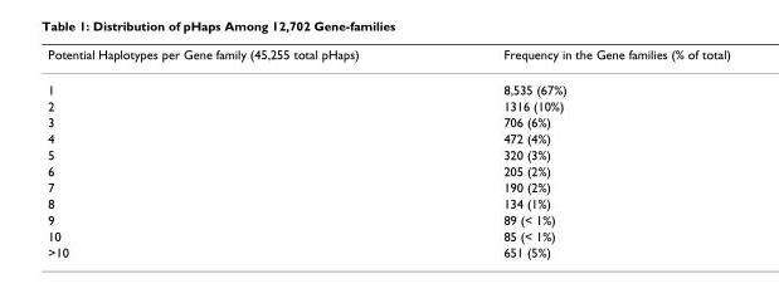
<table><thead><tr><td>Potential Haplotypes per Gene family (45,255 total pHaps)</td><td>Frequency in the Gene families (% of total)</td></tr></thead><tbody><tr><td>1</td><td>8,535 (67%)</td></tr><tr><td>2</td><td>1316 (10%)</td></tr><tr><td>3</td><td>706 (6%)</td></tr><tr><td>4</td><td>472 (4%)</td></tr><tr><td>5</td><td>320 (3%)</td></tr><tr><td>6</td><td>205 (2%)</td></tr><tr><td>7</td><td>190 (2%)</td></tr><tr><td>8</td><td>134 (1%)</td></tr><tr><td>9</td><td>89 (&lt; 1%)</td></tr><tr><td>10</td><td>85 (&lt; 1%)</td></tr><tr><td>&gt;10</td><td>651 (5%)</td></tr></tbody></table>